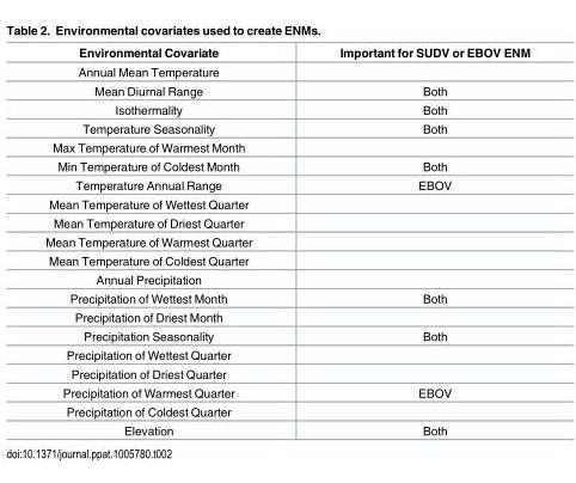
<table><thead><tr><td>Environmental Covariate</td><td>Important for SUDV or EBOV ENM</td></tr></thead><tbody><tr><td colspan="2">Annual Mean Temperature</td></tr><tr><td>Mean Diurnal Range</td><td>Both</td></tr><tr><td>Isothermality</td><td>Both</td></tr><tr><td>Temperature Seasonality</td><td>Both</td></tr><tr><td colspan="2">Max Temperature of Warmest Month</td></tr><tr><td>Min Temperature of Coldest Month</td><td>Both</td></tr><tr><td>Temperature Annual Range</td><td>EBOV</td></tr><tr><td colspan="2">Mean Temperature of Wettest Quarter</td></tr><tr><td colspan="2">Mean Temperature of Driest Quarter</td></tr><tr><td colspan="2">Mean Temperature of Warmest Quarter</td></tr><tr><td colspan="2">Mean Temperature of Coldest Quarter</td></tr><tr><td colspan="2">Annual Precipitation</td></tr><tr><td>Precipitation of Wettest Month</td><td>Both</td></tr><tr><td colspan="2">Precipitation of Driest Month</td></tr><tr><td>Precipitation Seasonality</td><td>Both</td></tr><tr><td colspan="2">Precipitation of Wettest Quarter</td></tr><tr><td colspan="2">Precipitation of Driest Quarter</td></tr><tr><td>Precipitation of Warmest Quarter</td><td>EBOV</td></tr><tr><td colspan="2">Precipitation of Coldest Quarter</td></tr><tr><td>Elevation</td><td>Both</td></tr></tbody></table>